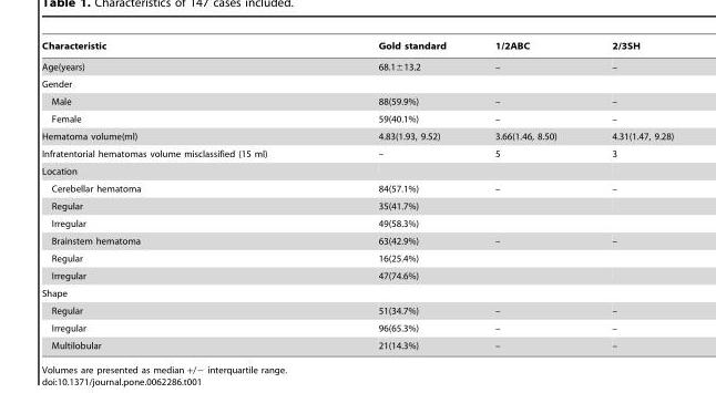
<table><thead><tr><td>Characteristic</td><td>Gold standard</td><td>1/2ABC</td><td>2/3SH</td></tr></thead><tbody><tr><td>Age(years)</td><td>68.1±13.2</td><td>–</td><td>–</td></tr><tr><td colspan="4">Gender</td></tr><tr><td>Male</td><td>88(59.9%)</td><td>–</td><td>–</td></tr><tr><td>Female</td><td>59(40.1%)</td><td>–</td><td>–</td></tr><tr><td>Hematoma volume(ml)</td><td>4.83(1.93, 9.52)</td><td>3.66(1.46, 8.50)</td><td>4.31(1.47, 9.28)</td></tr><tr><td>Infratentorial hematomas volume misclassified (15 ml)</td><td>–</td><td>5</td><td>3</td></tr><tr><td colspan="4">Location</td></tr><tr><td>Cerebellar hematoma</td><td>84(57.1%)</td><td>–</td><td>–</td></tr><tr><td>Regular</td><td>35(41.7%)</td><td></td><td></td></tr><tr><td>Irregular</td><td>49(58.3%)</td><td></td><td></td></tr><tr><td>Brainstem hematoma</td><td>63(42.9%)</td><td>–</td><td>–</td></tr><tr><td>Regular</td><td>16(25.4%)</td><td></td><td></td></tr><tr><td>Irregular</td><td>47(74.6%)</td><td></td><td></td></tr><tr><td colspan="4">Shape</td></tr><tr><td>Regular</td><td>51(34.7%)</td><td>–</td><td>–</td></tr><tr><td>Irregular</td><td>96(65.3%)</td><td>–</td><td>–</td></tr><tr><td>Multilobular</td><td>21(14.3%)</td><td>–</td><td>–</td></tr></tbody></table>